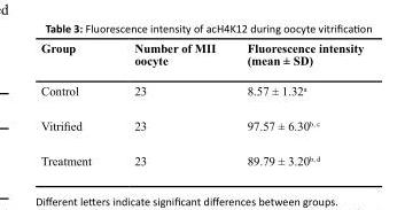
<table><thead><tr><td>Group</td><td>Number of MII oocyte</td><td>Fluorescence intensity (mean ± SD)</td></tr></thead><tbody><tr><td>Control</td><td>23</td><td>8.57 ± 1.32<sup>a</sup></td></tr><tr><td>Vitrified</td><td>23</td><td>97.57 ± 6.30<sup>b, c</sup></td></tr><tr><td>Treatment</td><td>23</td><td>89.79 ± 3.20<sup>b, d</sup></td></tr></tbody></table>